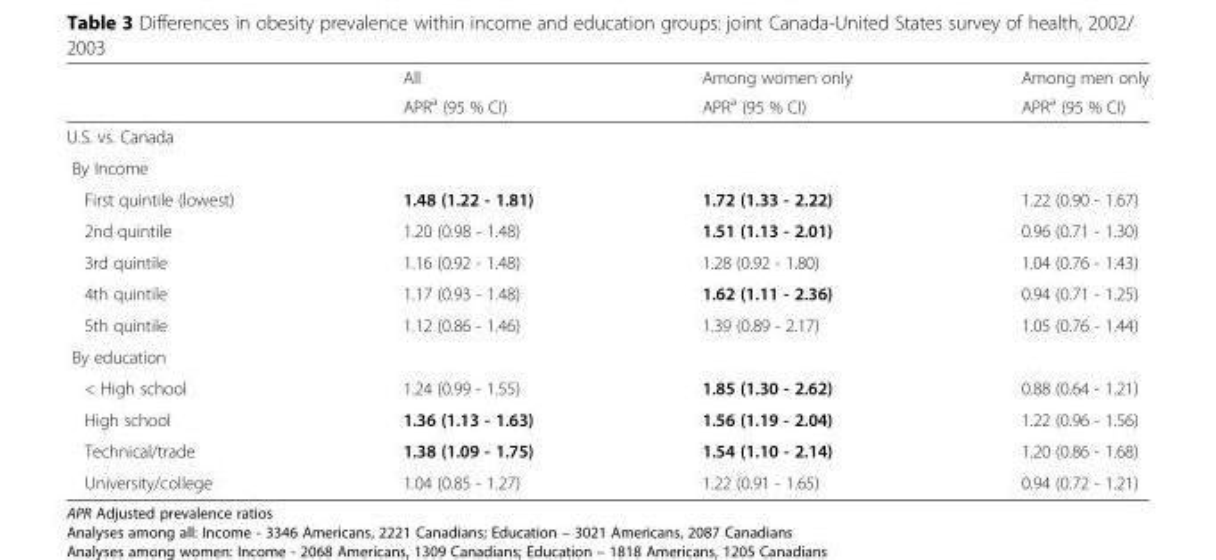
<table><thead><tr><td rowspan="2"></td><td rowspan="2">All APR<sup>a</sup> (95 % CI)</td><td rowspan="2">Among women only APR<sup>a</sup> (95 % CI)</td><td rowspan="2">Among men only APR<sup>a</sup> (95 % CI)</td></tr><tr></tr></thead><tbody><tr><td colspan="4">U.S. vs. Canada</td></tr><tr><td colspan="4">By Income</td></tr><tr><td>First quintile (lowest)</td><td>1.48 (1.22 - 1.81)</td><td>1.72 (1.33 - 2.22)</td><td>1.22 (0.90 - 1.67)</td></tr><tr><td>2nd quintile</td><td>1.20 (0.98 - 1.48)</td><td>1.51 (1.13 - 2.01)</td><td>0.96 (0.71 - 1.30)</td></tr><tr><td>3rd quintile</td><td>1.16 (0.92 - 1.48)</td><td>1.28 (0.92 - 1.80)</td><td>1.04 (0.76 - 1.43)</td></tr><tr><td>4th quintile</td><td>1.17 (0.93 - 1.48)</td><td>1.62 (1.11 - 2.36)</td><td>0.94 (0.71 - 1.25)</td></tr><tr><td>5th quintile</td><td>1.12 (0.86 - 1.46)</td><td>1.39 (0.89 - 2.17)</td><td>1.05 (0.76 - 1.44)</td></tr><tr><td colspan="4">By education</td></tr><tr><td>&lt; High school</td><td>1.24 (0.99 - 1.55)</td><td>1.85 (1.30 - 2.62)</td><td>0.88 (0.64 - 1.21)</td></tr><tr><td>High school</td><td>1.36 (1.13 - 1.63)</td><td>1.56 (1.19 - 2.04)</td><td>1.22 (0.96 - 1.56)</td></tr><tr><td>Technical/trade</td><td>1.38 (1.09 - 1.75)</td><td>1.54 (1.10 - 2.14)</td><td>1.20 (0.86 - 1.68)</td></tr><tr><td>University/college</td><td>1.04 (0.85 - 1.27)</td><td>1.22 (0.91 - 1.65)</td><td>0.94 (0.72 - 1.21)</td></tr></tbody></table>